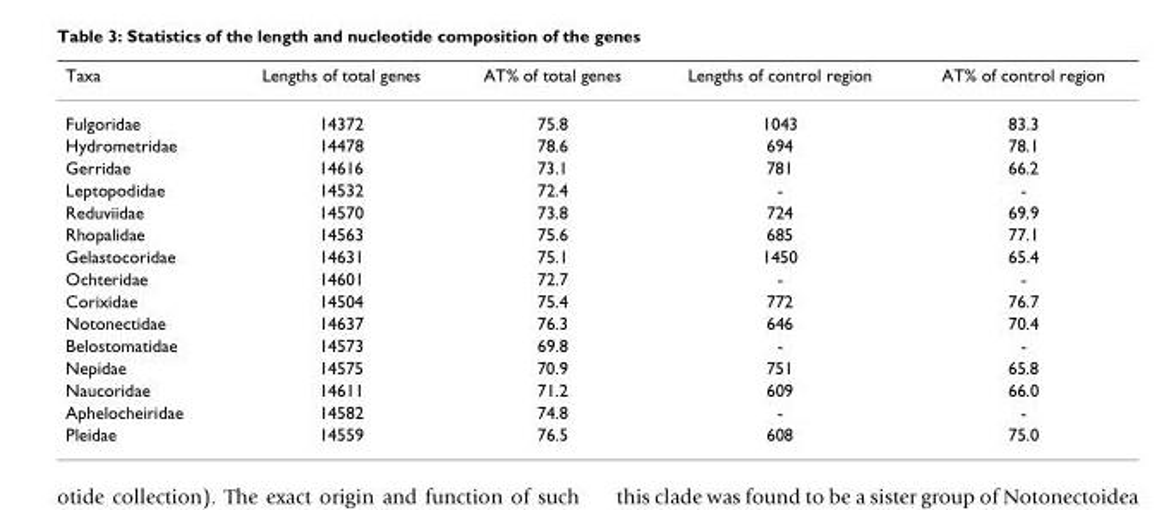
<table><thead><tr><td>Taxa</td><td>Lengths of total genes</td><td>AT% of total genes</td><td>Lengths of control region</td><td>AT% of control region</td></tr></thead><tbody><tr><td>Fulgoridae</td><td>14372</td><td>75.8</td><td>1043</td><td>83.3</td></tr><tr><td>Hydrometridae</td><td>14478</td><td>78.6</td><td>694</td><td>78.1</td></tr><tr><td>Gerridae</td><td>14616</td><td>73.1</td><td>781</td><td>66.2</td></tr><tr><td>Leptopodidae</td><td>14532</td><td>72.4</td><td>-</td><td>-</td></tr><tr><td>Reduviidae</td><td>14570</td><td>73.8</td><td>724</td><td>69.9</td></tr><tr><td>Rhopalidae</td><td>14563</td><td>75.6</td><td>685</td><td>77.1</td></tr><tr><td>Gelastocoridae</td><td>14631</td><td>75.1</td><td>1450</td><td>65.4</td></tr><tr><td>Ochteridae</td><td>14601</td><td>72.7</td><td>-</td><td>-</td></tr><tr><td>Corixidae</td><td>14504</td><td>75.4</td><td>772</td><td>76.7</td></tr><tr><td>Notonectidae</td><td>14637</td><td>76.3</td><td>646</td><td>70.4</td></tr><tr><td>Belostomatidae</td><td>14573</td><td>69.8</td><td>-</td><td>-</td></tr><tr><td>Nepidae</td><td>14575</td><td>70.9</td><td>751</td><td>65.8</td></tr><tr><td>Naucoridae</td><td>14611</td><td>71.2</td><td>609</td><td>66.0</td></tr><tr><td>Aphelocheiridae</td><td>14582</td><td>74.8</td><td>-</td><td>-</td></tr><tr><td>Pleidae</td><td>14559</td><td>76.5</td><td>608</td><td>75.0</td></tr></tbody></table>